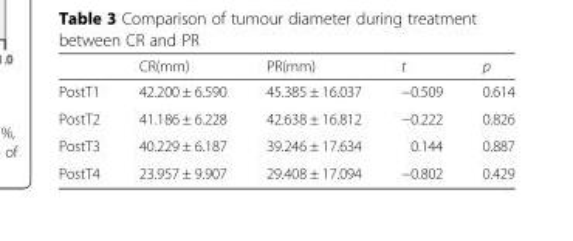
<table><thead><tr><td></td><td>CR(mm)</td><td>PR(mm)</td><td>t</td><td>p</td></tr></thead><tbody><tr><td>PostT1</td><td>42.200 ± 6.590</td><td>45.385 ± 16.037</td><td>−0.509</td><td>0.614</td></tr><tr><td>PostT2</td><td>41.186 ± 6.228</td><td>42.638 ± 16.812</td><td>−0.222</td><td>0.826</td></tr><tr><td>PostT3</td><td>40.229 ± 6.187</td><td>39.246 ± 17.634</td><td>0.144</td><td>0.887</td></tr><tr><td>PostT4</td><td>23.957 ± 9.907</td><td>29.408 ± 17.094</td><td>−0.802</td><td>0.429</td></tr></tbody></table>